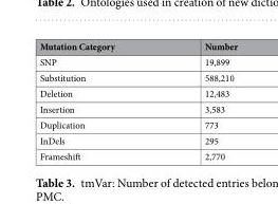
<table><thead><tr><td>Mutation Category</td><td>Number</td></tr></thead><tbody><tr><td>SNP</td><td>19,899</td></tr><tr><td>Substitution</td><td>588,210</td></tr><tr><td>Deletion</td><td>12,483</td></tr><tr><td>Insertion</td><td>3,583</td></tr><tr><td>Duplication</td><td>773</td></tr><tr><td>InDels</td><td>295</td></tr><tr><td>Frameshift</td><td>2,770</td></tr></tbody></table>